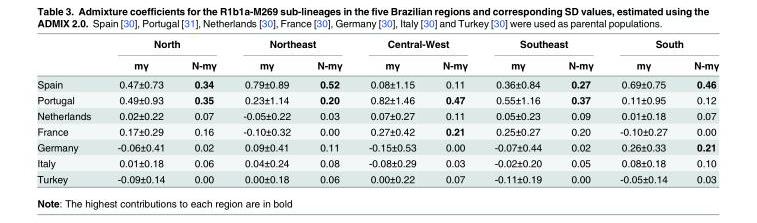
<table><thead><tr><td rowspan="2"></td><td colspan="2">North</td><td colspan="2">Northeast</td><td colspan="2">Central-West</td><td colspan="2">Southeast</td><td colspan="2">South</td></tr><tr><td>mγ</td><td>N-mγ</td><td>mγ</td><td>N-mγ</td><td>mγ</td><td>N-mγ</td><td>mγ</td><td>N-mγ</td><td>mγ</td><td>N-mγ</td></tr></thead><tbody><tr><td>Spain</td><td>0.47±0.73</td><td>0.34</td><td>0.79±0.89</td><td>0.52</td><td>0.08±1.15</td><td>0.11</td><td>0.36±0.84</td><td>0.27</td><td>0.69±0.75</td><td>0.46</td></tr><tr><td>Portugal</td><td>0.49±0.93</td><td>0.35</td><td>0.23±1.14</td><td>0.20</td><td>0.82±1.46</td><td>0.47</td><td>0.55±1.16</td><td>0.37</td><td>0.11±0.95</td><td>0.12</td></tr><tr><td>Netherlands</td><td>0.02±0.22</td><td>0.07</td><td>-0.05±0.22</td><td>0.03</td><td>0.07±0.27</td><td>0.11</td><td>0.05±0.23</td><td>0.09</td><td>0.01±0.18</td><td>0.07</td></tr><tr><td>France</td><td>0.17±0.29</td><td>0.16</td><td>-0.10±0.32</td><td>0.00</td><td>0.27±0.42</td><td>0.21</td><td>0.25±0.27</td><td>0.20</td><td>-0.10±0.27</td><td>0.00</td></tr><tr><td>Germany</td><td>-0.06±0.41</td><td>0.02</td><td>0.09±0.41</td><td>0.11</td><td>-0.15±0.53</td><td>0.00</td><td>-0.07±0.44</td><td>0.02</td><td>0.26±0.33</td><td>0.21</td></tr><tr><td>Italy</td><td>0.01±0.18</td><td>0.06</td><td>0.04±0.24</td><td>0.08</td><td>-0.08±0.29</td><td>0.03</td><td>-0.02±0.20</td><td>0.05</td><td>0.08±0.18</td><td>0.10</td></tr><tr><td>Turkey</td><td>-0.09±0.14</td><td>0.00</td><td>0.00±0.18</td><td>0.06</td><td>0.00±0.22</td><td>0.07</td><td>-0.11±0.19</td><td>0.00</td><td>-0.05±0.14</td><td>0.03</td></tr></tbody></table>